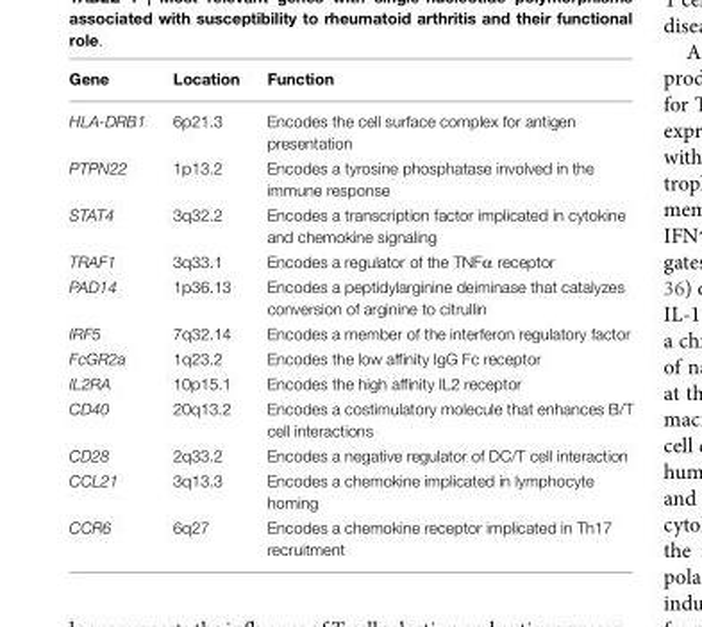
<table><thead><tr><td>Gene</td><td>Location</td><td>Function</td></tr></thead><tbody><tr><td>HLA-DRB1</td><td>6p21.3</td><td>Encodes the cell surface complex for antigen presentation</td></tr><tr><td>PTPN22</td><td>1p13.2</td><td>Encodes a tyrosine phosphatase involved in the immune response</td></tr><tr><td>STAT4</td><td>3q32.2</td><td>Encodes a transcription factor implicated in cytokine and chemokine signaling</td></tr><tr><td>TRAF1</td><td>3q33.1</td><td>Encodes a regulator of the TNFα receptor</td></tr><tr><td>PAD14</td><td>1p36.13</td><td>Encodes a peptidylarginine deiminase that catalyzes conversion of arginine to citrullin</td></tr><tr><td>IRF5</td><td>7q32.14</td><td>Encodes a member of the interferon regulatory factor</td></tr><tr><td>FcGR2a</td><td>1q23.2</td><td>Encodes the low affinity IgG Fc receptor</td></tr><tr><td>IL2RA</td><td>10p15.1</td><td>Encodes the high affinity IL2 receptor</td></tr><tr><td>CD40</td><td>20q13.2</td><td>Encodes a costimulatory molecule that enhances B/T cell interactions</td></tr><tr><td>CD28</td><td>2q33.2</td><td>Encodes a negative regulator of DC/T cell interaction</td></tr><tr><td>CCL21</td><td>3q13.3</td><td>Encodes a chemokine implicated in lymphocyte homing</td></tr><tr><td>CCR6</td><td>6q27</td><td>Encodes a chemokine receptor implicated in Th17 recruitment</td></tr></tbody></table>